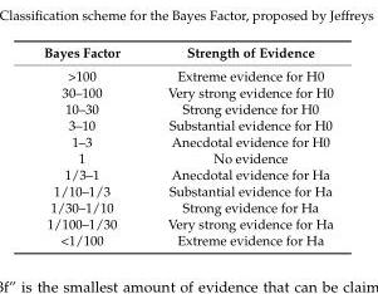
<table><thead><tr><td>Bayes Factor</td><td>Strength of Evidence</td></tr></thead><tbody><tr><td>&gt;100</td><td>Extreme evidence for H0</td></tr><tr><td>30–100</td><td>Very strong evidence for H0</td></tr><tr><td>10–30</td><td>Strong evidence for H0</td></tr><tr><td>3–10</td><td>Substantial evidence for H0</td></tr><tr><td>1–3</td><td>Anecdotal evidence for H0</td></tr><tr><td>1</td><td>No evidence</td></tr><tr><td>1/3–1</td><td>Anecdotal evidence for Ha</td></tr><tr><td>1/10–1/3</td><td>Substantial evidence for Ha</td></tr><tr><td>1/30–1/10</td><td>Strong evidence for Ha</td></tr><tr><td>1/100–1/30</td><td>Very strong evidence for Ha</td></tr><tr><td>&lt;1/100</td><td>Extreme evidence for Ha</td></tr></tbody></table>